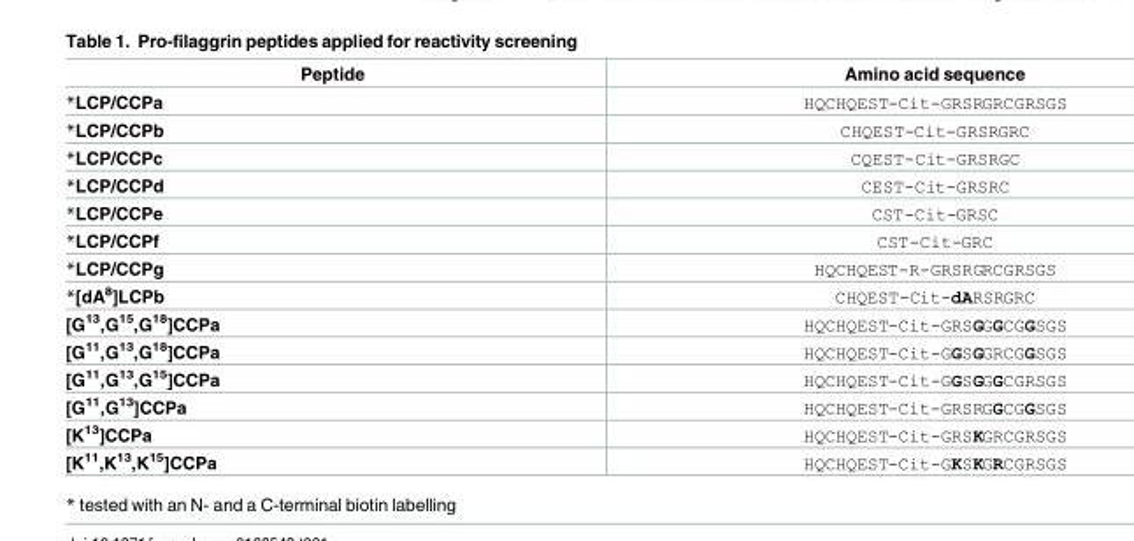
<table><thead><tr><td>Peptide</td><td>Amino acid sequence</td></tr></thead><tbody><tr><td>*LCP/CCPa</td><td>HQCHQEST-Cit-GRSRGRCGRSGS</td></tr><tr><td>*LCP/CCPb</td><td>CHQEST-Cit-GRSRGRC</td></tr><tr><td>*LCP/CCPc</td><td>CQEST-Cit-GRSRGC</td></tr><tr><td>*LCP/CCPd</td><td>CEST-Cit-GRSRC</td></tr><tr><td>*LCP/CCPe</td><td>CST-Cit-GRSC</td></tr><tr><td>*LCP/CCPf</td><td>CST-Cit-GRC</td></tr><tr><td>*LCP/CCPg</td><td>HQCHQEST-R-GRSRGRCGRSGS</td></tr><tr><td>*[dA<sup>8</sup>]LCPb</td><td>CHQEST-Cit-dARSRGRC</td></tr><tr><td>[G<sup>13</sup>,G<sup>15</sup>,G<sup>18</sup>]CCPa</td><td>HQCHQEST-Cit-GRSGGGCGGSGS</td></tr><tr><td>[G<sup>11</sup>,G<sup>13</sup>,G<sup>18</sup>]CCPa</td><td>HQCHQEST-Cit-GGSGGRCGGSGS</td></tr><tr><td>[G<sup>11</sup>,G<sup>13</sup>,G<sup>15</sup>]CCPa</td><td>HQCHQEST-Cit-GGSGGGCGRSGS</td></tr><tr><td>[G<sup>11</sup>,G<sup>13</sup>]CCPa</td><td>HQCHQEST-Cit-GRSRGGCGGSGS</td></tr><tr><td>[K<sup>13</sup>]CCPa</td><td>HQCHQEST-Cit-GRSKGRCGRSGS</td></tr><tr><td>[K<sup>11</sup>,K<sup>13</sup>,K<sup>15</sup>]CCPa</td><td>HQCHQEST-Cit-GKSKGRCGRSGS</td></tr></tbody></table>